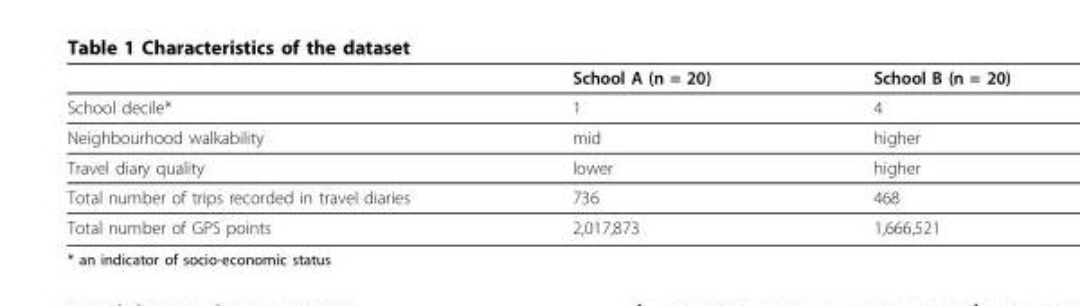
<table><thead><tr><td></td><td>School A (n = 20)</td><td>School B (n = 20)</td></tr></thead><tbody><tr><td>School decile*</td><td>1</td><td>4</td></tr><tr><td>Neighbourhood walkability</td><td>mid</td><td>higher</td></tr><tr><td>Travel diary quality</td><td>lower</td><td>higher</td></tr><tr><td>Total number of trips recorded in travel diaries</td><td>736</td><td>468</td></tr><tr><td>Total number of GPS points</td><td>2,017,873</td><td>1,666,521</td></tr></tbody></table>